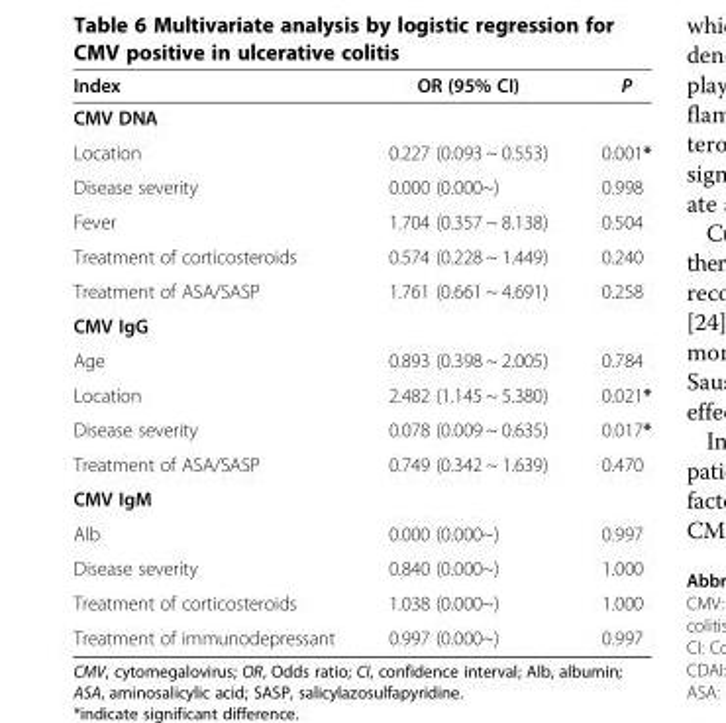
<table><thead><tr><td>Index</td><td>OR (95% CI)</td><td>P</td></tr></thead><tbody><tr><td colspan="3">CMV DNA</td></tr><tr><td>Location</td><td>0.227 (0.093 ~ 0.553)</td><td>0.001*</td></tr><tr><td>Disease severity</td><td>0.000 (0.000~)</td><td>0.998</td></tr><tr><td>Fever</td><td>1.704 (0.357 ~ 8.138)</td><td>0.504</td></tr><tr><td>Treatment of corticosteroids</td><td>0.574 (0.228 ~ 1.449)</td><td>0.240</td></tr><tr><td>Treatment of ASA/SASP</td><td>1.761 (0.661 ~ 4.691)</td><td>0.258</td></tr><tr><td colspan="3">CMV IgG</td></tr><tr><td>Age</td><td>0.893 (0.398 ~ 2.005)</td><td>0.784</td></tr><tr><td>Location</td><td>2.482 (1.145 ~ 5.380)</td><td>0.021*</td></tr><tr><td>Disease severity</td><td>0.078 (0.009 ~ 0.635)</td><td>0.017*</td></tr><tr><td>Treatment of ASA/SASP</td><td>0.749 (0.342 ~ 1.639)</td><td>0.470</td></tr><tr><td colspan="3">CMV IgM</td></tr><tr><td>Alb</td><td>0.000 (0.000~)</td><td>0.997</td></tr><tr><td>Disease severity</td><td>0.840 (0.000~)</td><td>1.000</td></tr><tr><td>Treatment of corticosteroids</td><td>1.038 (0.000~)</td><td>1.000</td></tr><tr><td>Treatment of immunodepressant</td><td>0.997 (0.000~)</td><td>0.997</td></tr></tbody></table>